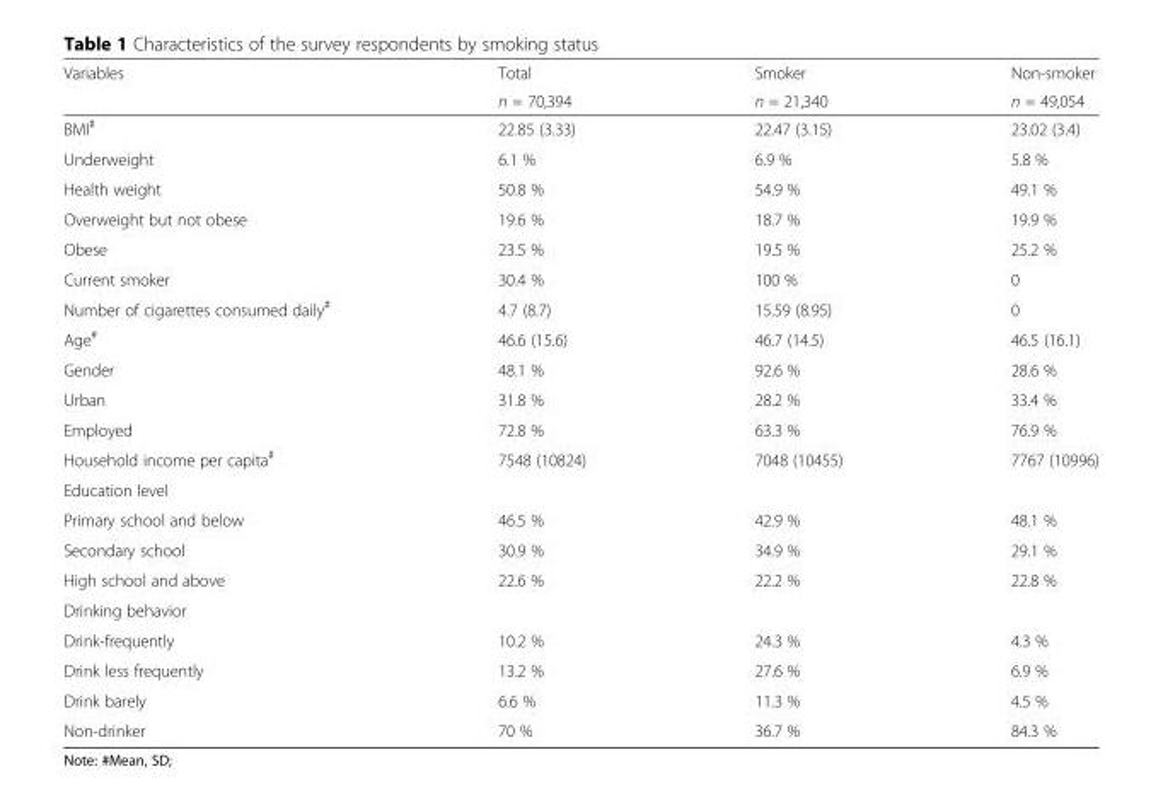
<table><thead><tr><td rowspan="2">Variables</td><td rowspan="2">Total n = 70,394</td><td rowspan="2">Smoker n = 21,340</td><td rowspan="2">Non-smoker n = 49,054</td></tr><tr></tr></thead><tbody><tr><td>BMI<sup>#</sup></td><td>22.85 (3.33)</td><td>22.47 (3.15)</td><td>23.02 (3.4)</td></tr><tr><td>Underweight</td><td>6.1 %</td><td>6.9 %</td><td>5.8 %</td></tr><tr><td>Health weight</td><td>50.8 %</td><td>54.9 %</td><td>49.1 %</td></tr><tr><td>Overweight but not obese</td><td>19.6 %</td><td>18.7 %</td><td>19.9 %</td></tr><tr><td>Obese</td><td>23.5 %</td><td>19.5 %</td><td>25.2 %</td></tr><tr><td>Current smoker</td><td>30.4 %</td><td>100 %</td><td>0</td></tr><tr><td>Number of cigarettes consumed daily<sup>#</sup></td><td>4.7 (8.7)</td><td>15.59 (8.95)</td><td>0</td></tr><tr><td>Age<sup>#</sup></td><td>46.6 (15.6)</td><td>46.7 (14.5)</td><td>46.5 (16.1)</td></tr><tr><td>Gender</td><td>48.1 %</td><td>92.6 %</td><td>28.6 %</td></tr><tr><td>Urban</td><td>31.8 %</td><td>28.2 %</td><td>33.4 %</td></tr><tr><td>Employed</td><td>72.8 %</td><td>63.3 %</td><td>76.9 %</td></tr><tr><td>Household income per capita<sup>#</sup></td><td>7548 (10824)</td><td>7048 (10455)</td><td>7767 (10996)</td></tr><tr><td colspan="4">Education level</td></tr><tr><td>Primary school and below</td><td>46.5 %</td><td>42.9 %</td><td>48.1 %</td></tr><tr><td>Secondary school</td><td>30.9 %</td><td>34.9 %</td><td>29.1 %</td></tr><tr><td>High school and above</td><td>22.6 %</td><td>22.2 %</td><td>22.8 %</td></tr><tr><td colspan="4">Drinking behavior</td></tr><tr><td>Drink-frequently</td><td>10.2 %</td><td>24.3 %</td><td>4.3 %</td></tr><tr><td>Drink less frequently</td><td>13.2 %</td><td>27.6 %</td><td>6.9 %</td></tr><tr><td>Drink barely</td><td>6.6 %</td><td>11.3 %</td><td>4.5 %</td></tr><tr><td>Non-drinker</td><td>70 %</td><td>36.7 %</td><td>84.3 %</td></tr></tbody></table>